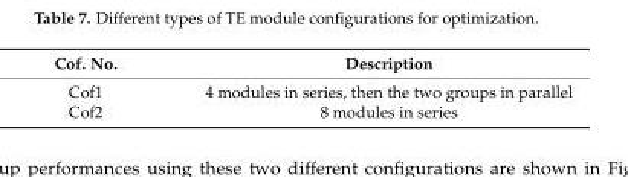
<table><thead><tr><td>Cof. No.</td><td>Description</td></tr></thead><tbody><tr><td>Cof1</td><td>4 modules in series, then the two groups in parallel</td></tr><tr><td>Cof2</td><td>8 modules in series</td></tr></tbody></table>